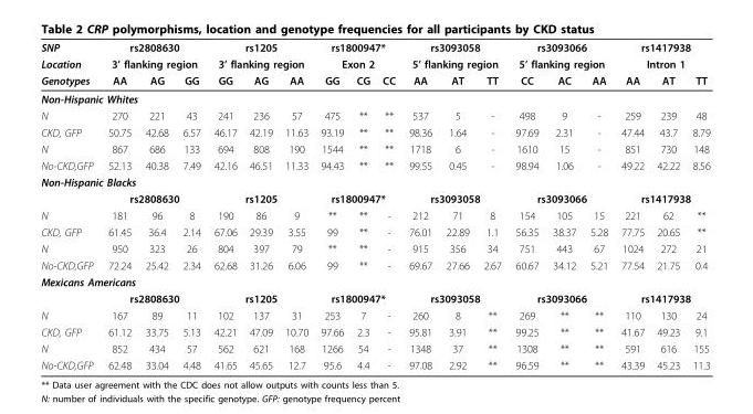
<table><thead><tr><td rowspan="3">SNP Location Genotypes</td><td rowspan="2" colspan="3">rs2808630 3’ flanking region</td><td rowspan="2" colspan="3">rs1205 3’ flanking region</td><td rowspan="2" colspan="3">rs1800947* Exon 2</td><td rowspan="2" colspan="3">rs3093058 5’ flanking region</td><td rowspan="2" colspan="3">rs3093066 5’ flanking region</td><td rowspan="2" colspan="3">rs1417938 Intron 1</td></tr><tr></tr><tr><td>AA</td><td>AG</td><td>GG</td><td>GG</td><td>AG</td><td>AA</td><td>GG</td><td>CG</td><td>CC</td><td>AA</td><td>AT</td><td>TT</td><td>CC</td><td>AC</td><td>AA</td><td>AA</td><td>AT</td><td>TT</td></tr></thead><tbody><tr><td colspan="19">Non-Hispanic Whites</td></tr><tr><td>N</td><td>270</td><td>221</td><td>43</td><td>241</td><td>236</td><td>57</td><td>475</td><td>**</td><td>**</td><td>537</td><td>5</td><td>-</td><td>498</td><td>9</td><td>-</td><td>259</td><td>239</td><td>48</td></tr><tr><td>CKD, GFP</td><td>50.75</td><td>42.68</td><td>6.57</td><td>46.17</td><td>42.19</td><td>11.63</td><td>93.19</td><td>**</td><td>**</td><td>98.36</td><td>1.64</td><td>-</td><td>97.69</td><td>2.31</td><td>-</td><td>47.44</td><td>43.7</td><td>8.79</td></tr><tr><td>N</td><td>867</td><td>686</td><td>133</td><td>694</td><td>808</td><td>190</td><td>1544</td><td>**</td><td>**</td><td>1718</td><td>6</td><td>-</td><td>1610</td><td>15</td><td>-</td><td>851</td><td>730</td><td>148</td></tr><tr><td>No-CKD,GFP</td><td>52.13</td><td>40.38</td><td>7.49</td><td>42.16</td><td>46.51</td><td>11.33</td><td>94.43</td><td>**</td><td>**</td><td>99.55</td><td>0.45</td><td>-</td><td>98.94</td><td>1.06</td><td>-</td><td>49.22</td><td>42.22</td><td>8.56</td></tr><tr><td colspan="19">Non-Hispanic Blacks</td></tr><tr><td></td><td colspan="3">rs2808630</td><td colspan="3">rs1205</td><td colspan="3">rs1800947*</td><td colspan="3">rs3093058</td><td colspan="3">rs3093066</td><td colspan="3">rs1417938</td></tr><tr><td>N</td><td>181</td><td>96</td><td>8</td><td>190</td><td>86</td><td>9</td><td>**</td><td>**</td><td>-</td><td>212</td><td>71</td><td>8</td><td>154</td><td>105</td><td>15</td><td>221</td><td>62</td><td>**</td></tr><tr><td>CKD, GFP</td><td>61.45</td><td>36.4</td><td>2.14</td><td>67.06</td><td>29.39</td><td>3.55</td><td>99</td><td>**</td><td>-</td><td>76.01</td><td>22.89</td><td>1.1</td><td>56.35</td><td>38.37</td><td>5.28</td><td>77.75</td><td>20.65</td><td>**</td></tr><tr><td>N</td><td>950</td><td>323</td><td>26</td><td>804</td><td>397</td><td>79</td><td>**</td><td>**</td><td>-</td><td>915</td><td>356</td><td>34</td><td>751</td><td>443</td><td>67</td><td>1024</td><td>272</td><td>21</td></tr><tr><td>No-CKD,GFP</td><td>72.24</td><td>25.42</td><td>2.34</td><td>62.68</td><td>31.26</td><td>6.06</td><td>99</td><td>**</td><td>-</td><td>69.67</td><td>27.66</td><td>2.67</td><td>60.67</td><td>34.12</td><td>5.21</td><td>77.54</td><td>21.75</td><td>0.4</td></tr><tr><td colspan="19">Mexicans Americans</td></tr><tr><td></td><td colspan="3">rs2808630</td><td colspan="3">rs1205</td><td colspan="3">rs1800947*</td><td colspan="3">rs3093058</td><td colspan="3">rs3093066</td><td colspan="3">rs1417938</td></tr><tr><td>N</td><td>167</td><td>89</td><td>11</td><td>102</td><td>137</td><td>31</td><td>253</td><td>7</td><td>-</td><td>260</td><td>8</td><td>**</td><td>269</td><td>**</td><td>**</td><td>110</td><td>130</td><td>24</td></tr><tr><td>CKD, GFP</td><td>61.12</td><td>33.75</td><td>5.13</td><td>42.21</td><td>47.09</td><td>10.70</td><td>97.66</td><td>2.3</td><td>-</td><td>95.81</td><td>3.91</td><td>**</td><td>99.25</td><td>**</td><td>**</td><td>41.67</td><td>49.23</td><td>9.1</td></tr><tr><td>N</td><td>852</td><td>434</td><td>57</td><td>562</td><td>621</td><td>168</td><td>1266</td><td>54</td><td>-</td><td>1348</td><td>37</td><td>**</td><td>1308</td><td>**</td><td>**</td><td>591</td><td>616</td><td>155</td></tr><tr><td>No-CKD,GFP</td><td>62.48</td><td>33.04</td><td>4.48</td><td>41.65</td><td>45.65</td><td>12.7</td><td>95.6</td><td>4.4</td><td>-</td><td>97.08</td><td>2.92</td><td>**</td><td>96.59</td><td>**</td><td>**</td><td>43.39</td><td>45.23</td><td>11.3</td></tr></tbody></table>